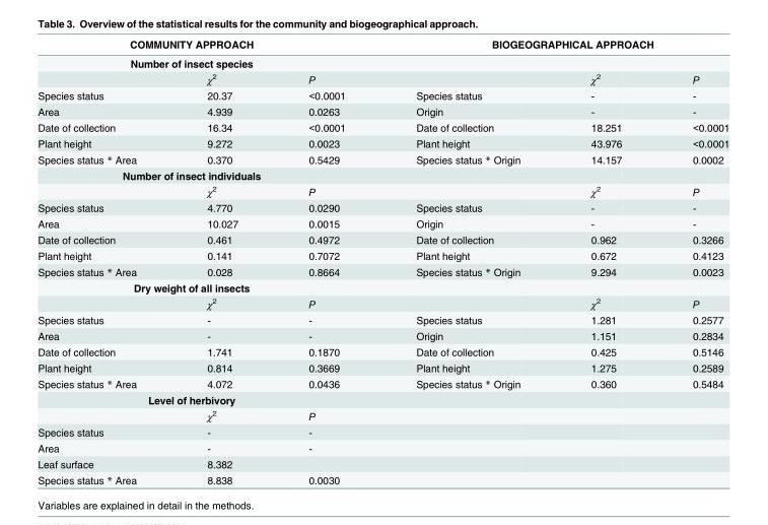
<table><thead><tr><td rowspan="2" colspan="3">COMMUNITY APPROACH Number of insect species</td><td rowspan="2" colspan="3">BIOGEOGRAPHICAL APPROACH</td></tr><tr></tr><tr><td></td><td>χ<sup>2</sup></td><td>P</td><td></td><td>χ<sup>2</sup></td><td>P</td></tr></thead><tbody><tr><td>Species status</td><td>20.37</td><td>&lt;0.0001</td><td>Species status</td><td>-</td><td>-</td></tr><tr><td>Area</td><td>4.939</td><td>0.0263</td><td>Origin</td><td>-</td><td>-</td></tr><tr><td>Date of collection</td><td>16.34</td><td>&lt;0.0001</td><td>Date of collection</td><td>18.251</td><td>&lt;0.0001</td></tr><tr><td>Plant height</td><td>9.272</td><td>0.0023</td><td>Plant height</td><td>43.976</td><td>&lt;0.0001</td></tr><tr><td>Species status * Area</td><td>0.370</td><td>0.5429</td><td>Species status * Origin</td><td>14.157</td><td>0.0002</td></tr><tr><td colspan="6">Number of insect individuals</td></tr><tr><td></td><td>χ<sup>2</sup></td><td>P</td><td></td><td>χ<sup>2</sup></td><td>P</td></tr><tr><td>Species status</td><td>4.770</td><td>0.0290</td><td>Species status</td><td>-</td><td>-</td></tr><tr><td>Area</td><td>10.027</td><td>0.0015</td><td>Origin</td><td>-</td><td>-</td></tr><tr><td>Date of collection</td><td>0.461</td><td>0.4972</td><td>Date of collection</td><td>0.962</td><td>0.3266</td></tr><tr><td>Plant height</td><td>0.141</td><td>0.7072</td><td>Plant height</td><td>0.672</td><td>0.4123</td></tr><tr><td>Species status * Area</td><td>0.028</td><td>0.8664</td><td>Species status * Origin</td><td>9.294</td><td>0.0023</td></tr><tr><td colspan="6">Dry weight of all insects</td></tr><tr><td></td><td>χ<sup>2</sup></td><td>P</td><td></td><td>χ<sup>2</sup></td><td>P</td></tr><tr><td>Species status</td><td>-</td><td>-</td><td>Species status</td><td>1.281</td><td>0.2577</td></tr><tr><td>Area</td><td>-</td><td>-</td><td>Origin</td><td>1.151</td><td>0.2834</td></tr><tr><td>Date of collection</td><td>1.741</td><td>0.1870</td><td>Date of collection</td><td>0.425</td><td>0.5146</td></tr><tr><td>Plant height</td><td>0.814</td><td>0.3669</td><td>Plant height</td><td>1.275</td><td>0.2589</td></tr><tr><td>Species status * Area</td><td>4.072</td><td>0.0436</td><td>Species status * Origin</td><td>0.360</td><td>0.5484</td></tr><tr><td colspan="6">Level of herbivory</td></tr><tr><td></td><td>χ<sup>2</sup></td><td>P</td><td></td><td></td><td></td></tr><tr><td>Species status</td><td>-</td><td>-</td><td></td><td></td><td></td></tr><tr><td>Area</td><td>-</td><td>-</td><td></td><td></td><td></td></tr><tr><td>Leaf surface</td><td>8.382</td><td></td><td></td><td></td><td></td></tr><tr><td>Species status * Area</td><td>8.838</td><td>0.0030</td><td></td><td></td><td></td></tr></tbody></table>